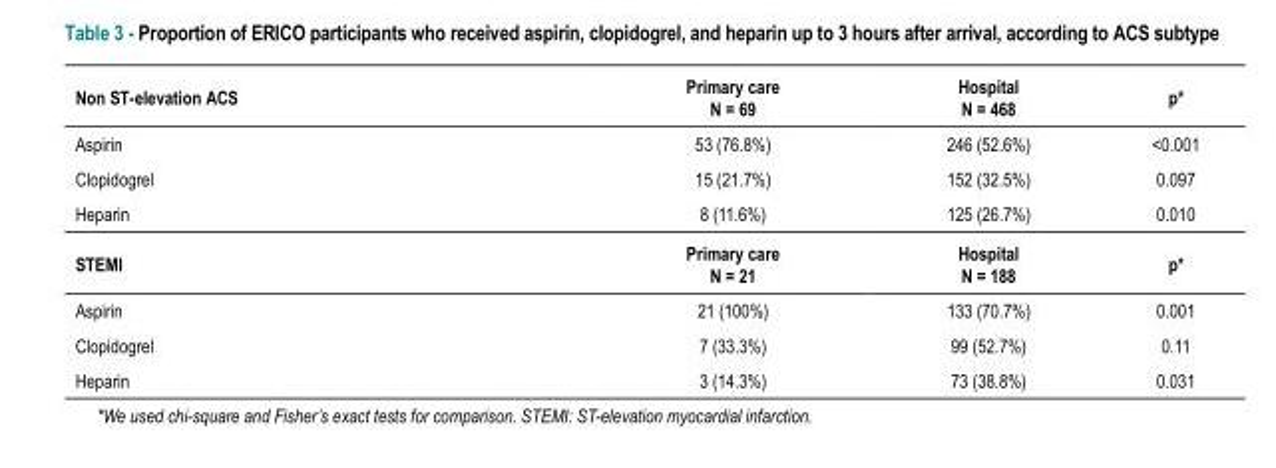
<table><thead><tr><td>Non ST-elevation ACS</td><td>Primary care N = 69</td><td>Hospital N = 468</td><td>p*</td></tr></thead><tbody><tr><td>Aspirin</td><td>53 (76.8%)</td><td>246 (52.6%)</td><td>&lt;0.001</td></tr><tr><td>Clopidogrel</td><td>15 (21.7%)</td><td>152 (32.5%)</td><td>0.097</td></tr><tr><td>Heparin</td><td>8 (11.6%)</td><td>125 (26.7%)</td><td>0.010</td></tr><tr><td>STEMI</td><td>Primary care N = 21</td><td>Hospital N = 188</td><td>p*</td></tr><tr><td>Aspirin</td><td>21 (100%)</td><td>133 (70.7%)</td><td>0.001</td></tr><tr><td>Clopidogrel</td><td>7 (33.3%)</td><td>99 (52.7%)</td><td>0.11</td></tr><tr><td>Heparin</td><td>3 (14.3%)</td><td>73 (38.8%)</td><td>0.031</td></tr></tbody></table>